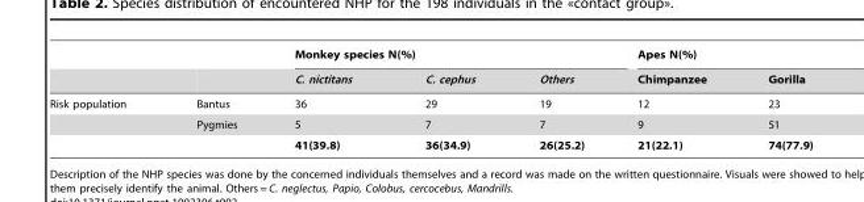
<table><thead><tr><td rowspan="2"></td><td rowspan="2"></td><td colspan="3">Monkey species N(%)</td><td colspan="2">Apes N(%)</td></tr><tr><td>C. nictitans</td><td>C. cephus</td><td>Others</td><td>Chimpanzee</td><td>Gorilla</td></tr></thead><tbody><tr><td rowspan="3">Risk population</td><td>Bantus</td><td>36</td><td>29</td><td>19</td><td>12</td><td>23</td></tr><tr><td>Pygmies</td><td>5</td><td>7</td><td>7</td><td>9</td><td>51</td></tr><tr><td></td><td>41(39.8)</td><td>36(34.9)</td><td>26(25.2)</td><td>21(22.1)</td><td>74(77.9)</td></tr></tbody></table>